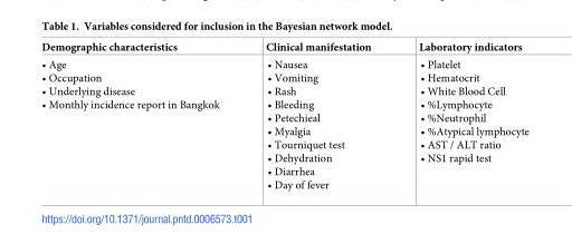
<table><thead><tr><td>Demographic characteristics</td><td>Clinical manifestation</td><td>Laboratory indicators</td></tr></thead><tbody><tr><td>• Age • Occupation • Underlying disease • Monthly incidence report in Bangkok</td><td>• Nausea • Vomiting • Rash • Bleeding • Petechieal • Myalgia • Tourniquet test • Dehydration • Diarrhea • Day of fever</td><td>• Platelet • Hematocrit • White Blood Cell • %Lymphocyte • %Neutrophil • %Atypical lymphocyte • AST / ALT ratio • NS1 rapid test</td></tr></tbody></table>